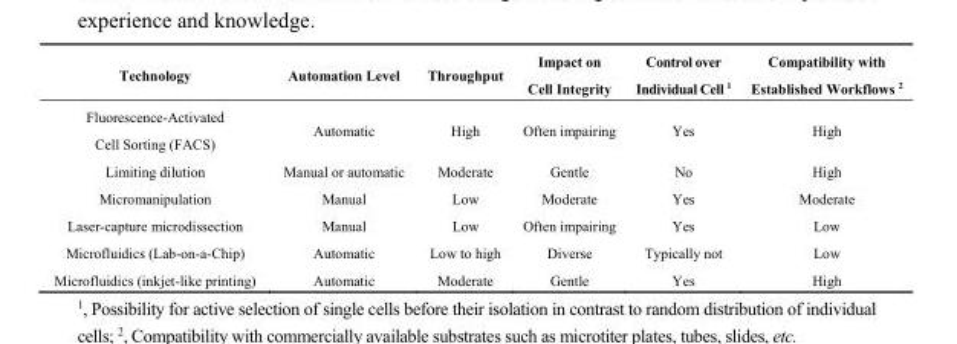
<table><thead><tr><td>Technology</td><td>Automation Level</td><td>Throughput</td><td>Impact on Cell Integrity</td><td>Control over Individual Cell <sup>1</sup></td><td>Compatibility with Established Workflows <sup>2</sup></td></tr></thead><tbody><tr><td>Fluorescence-Activated Cell Sorting (FACS)</td><td>Automatic</td><td>High</td><td>Often impairing</td><td>Yes</td><td>High</td></tr><tr><td>Limiting dilution</td><td>Manual or automatic</td><td>Moderate</td><td>Gentle</td><td>No</td><td>High</td></tr><tr><td>Micromanipulation</td><td>Manual</td><td>Low</td><td>Moderate</td><td>Yes</td><td>Moderate</td></tr><tr><td>Laser-capture microdissection</td><td>Manual</td><td>Low</td><td>Often impairing</td><td>Yes</td><td>Low</td></tr><tr><td>Microfluidics (Lab-on-a-Chip)</td><td>Automatic</td><td>Low to high</td><td>Diverse</td><td>Typically not</td><td>Low</td></tr><tr><td>Microfluidics (inkjet-like printing)</td><td>Automatic</td><td>Moderate</td><td>Gentle</td><td>Yes</td><td>High</td></tr></tbody></table>